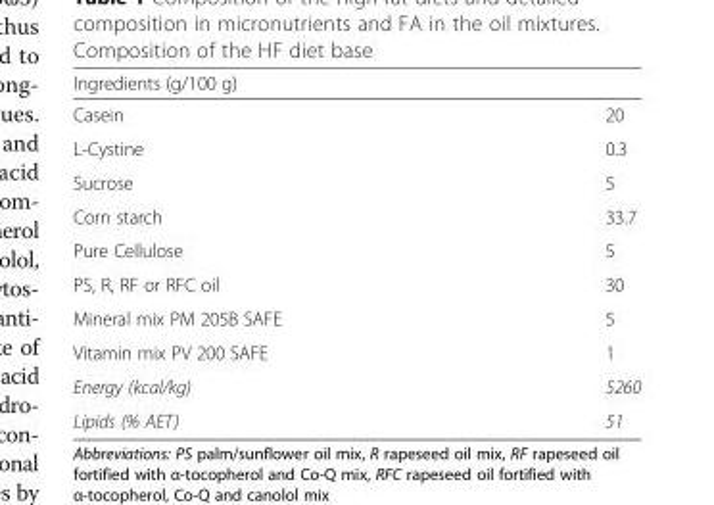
<table><thead><tr><td colspan="2">Ingredients (g/100 g)</td></tr><tr><td>Casein</td><td>20</td></tr></thead><tbody><tr><td>L-Cystine</td><td>0.3</td></tr><tr><td>Sucrose</td><td>5</td></tr><tr><td>Corn starch</td><td>33.7</td></tr><tr><td>Pure Cellulose</td><td>5</td></tr><tr><td>PS, R, RF or RFC oil</td><td>30</td></tr><tr><td>Mineral mix PM 205B SAFE</td><td>5</td></tr><tr><td>Vitamin mix PV 200 SAFE</td><td>1</td></tr><tr><td>Energy (kcal/kg)</td><td>5260</td></tr><tr><td>Lipids (% AET)</td><td>51</td></tr></tbody></table>